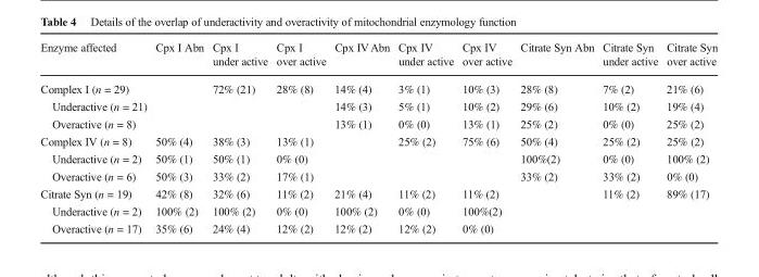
<table><thead><tr><td>Enzyme affected</td><td>Cpx I Abn</td><td>Cpx I under active</td><td>Cpx I over active</td><td>Cpx IVAbn</td><td>Cpx IV under active</td><td>Cpx IV over active</td><td>Citrate Syn Abn</td><td>Citrate Syn under active</td><td>Citrate Syn over active</td></tr></thead><tbody><tr><td>Complex I (n = 29)</td><td></td><td>72% (21)</td><td>28% (8)</td><td>14% (4)</td><td>3% (1)</td><td>10% (3)</td><td>28% (8)</td><td>7% (2)</td><td>21% (6)</td></tr><tr><td>Underactive (n = 21)</td><td></td><td></td><td></td><td>14% (3)</td><td>5% (1)</td><td>10% (2)</td><td>29% (6)</td><td>10% (2)</td><td>19% (4)</td></tr><tr><td>Overactive (n = 8)</td><td></td><td></td><td></td><td>13% (1)</td><td>0% (0)</td><td>13% (1)</td><td>25% (2)</td><td>0% (0)</td><td>25% (2)</td></tr><tr><td>Complex IV (n = 8)</td><td>50% (4)</td><td>38% (3)</td><td>13% (1)</td><td></td><td>25% (2)</td><td>75% (6)</td><td>50% (4)</td><td>25% (2)</td><td>25% (2)</td></tr><tr><td>Underactive (n = 2)</td><td>50% (1)</td><td>50% (1)</td><td>0% (0)</td><td></td><td></td><td></td><td>100%(2)</td><td>0% (0)</td><td>100% (2)</td></tr><tr><td>Overactive (n = 6)</td><td>50% (3)</td><td>33% (2)</td><td>17% (1)</td><td></td><td></td><td></td><td>33% (2)</td><td>33% (2)</td><td>0% (0)</td></tr><tr><td>Citrate Syn (n = 19)</td><td>42% (8)</td><td>32% (6)</td><td>11% (2)</td><td>21% (4)</td><td>11% (2)</td><td>11% (2)</td><td></td><td>11% (2)</td><td>89% (17)</td></tr><tr><td>Underactive (n = 2)</td><td>100% (2)</td><td>100% (2)</td><td>0% (0)</td><td>100% (2)</td><td>0% (0)</td><td>100%(2)</td><td></td><td></td><td></td></tr><tr><td>Overactive (n = 17)</td><td>35% (6)</td><td>24% (4)</td><td>12% (2)</td><td>12% (2)</td><td>12% (2)</td><td>0% (0)</td><td></td><td></td><td></td></tr></tbody></table>